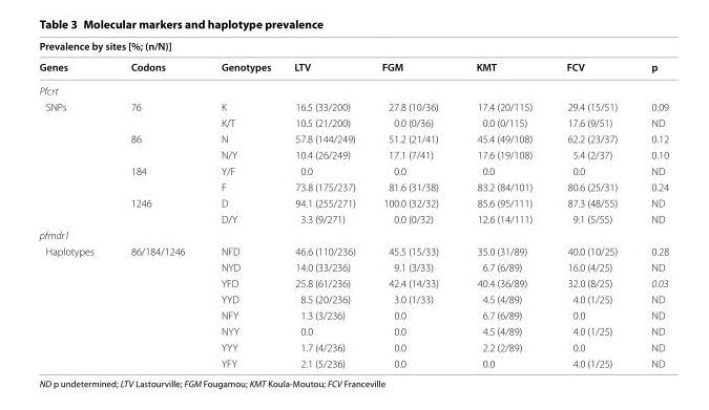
<table><thead><tr><td colspan="8">Prevalence by sites [%; (n/N)]</td></tr><tr><td>Genes</td><td>Codons</td><td>Genotypes</td><td>LTV</td><td>FGM</td><td>KMT</td><td>FCV</td><td>p</td></tr></thead><tbody><tr><td colspan="8">Pfcrt</td></tr><tr><td rowspan="8">SNPs</td><td rowspan="2">76</td><td>K</td><td>16.5 (33/200)</td><td>27.8 (10/36)</td><td>17.4 (20/115)</td><td>29.4 (15/51)</td><td>0.09</td></tr><tr><td>K/T</td><td>10.5 (21/200)</td><td>0.0 (0/36)</td><td>0.0 (0/115)</td><td>17.6 (9/51)</td><td>ND</td></tr><tr><td rowspan="2">86</td><td>N</td><td>57.8 (144/249)</td><td>51.2 (21/41)</td><td>45.4 (49/108)</td><td>62.2 (23/37)</td><td>0.12</td></tr><tr><td>N/Y</td><td>10.4 (26/249)</td><td>17.1 (7/41)</td><td>17.6 (19/108)</td><td>5.4 (2/37)</td><td>0.10</td></tr><tr><td rowspan="2">184</td><td>Y/F</td><td>0.0</td><td>0.0</td><td>0.0</td><td>0.0</td><td>ND</td></tr><tr><td>F</td><td>73.8 (175/237)</td><td>81.6 (31/38)</td><td>83.2 (84/101)</td><td>80.6 (25/31)</td><td>0.24</td></tr><tr><td rowspan="2">1246</td><td>D</td><td>94.1 (255/271)</td><td>100.0 (32/32)</td><td>85.6 (95/111)</td><td>87.3 (48/55)</td><td>ND</td></tr><tr><td>D/Y</td><td>3.3 (9/271)</td><td>0.0 (0/32)</td><td>12.6 (14/111)</td><td>9.1 (5/55)</td><td>ND</td></tr><tr><td colspan="8">pfmdr1</td></tr><tr><td rowspan="8">Haplotypes</td><td rowspan="8">86/184/1246</td><td>NFD</td><td>46.6 (110/236)</td><td>45.5 (15/33)</td><td>35.0 (31/89)</td><td>40.0 (10/25)</td><td>0.28</td></tr><tr><td>NYD</td><td>14.0 (33/236)</td><td>9.1 (3/33)</td><td>6.7 (6/89)</td><td>16.0 (4/25)</td><td>ND</td></tr><tr><td>YFD</td><td>25.8 (61/236)</td><td>42.4 (14/33)</td><td>40.4 (36/89)</td><td>32.0 (8/25)</td><td>0.03</td></tr><tr><td>YYD</td><td>8.5 (20/236)</td><td>3.0 (1/33)</td><td>4.5 (4/89)</td><td>4.0 (1/25)</td><td>ND</td></tr><tr><td>NFY</td><td>1.3 (3/236)</td><td>0.0</td><td>6.7 (6/89)</td><td>0.0</td><td>ND</td></tr><tr><td>NYY</td><td>0.0</td><td>0.0</td><td>4.5 (4/89)</td><td>4.0 (1/25)</td><td>ND</td></tr><tr><td>YYY</td><td>1.7 (4/236)</td><td>0.0</td><td>2.2 (2/89)</td><td>0.0</td><td>ND</td></tr><tr><td>YFY</td><td>2.1 (5/236)</td><td>0.0</td><td>0.0</td><td>4.0 (1/25)</td><td>ND</td></tr></tbody></table>